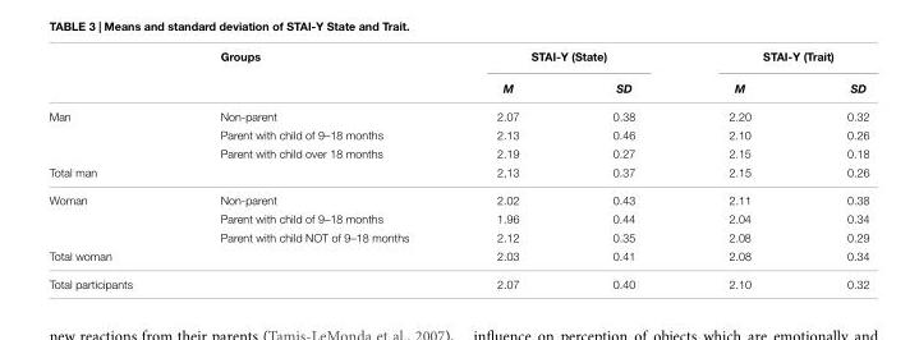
<table><thead><tr><td rowspan="2"></td><td rowspan="2">Groups</td><td colspan="2">STAI-Y (State)</td><td colspan="2">STAI-Y (Trait)</td></tr><tr><td>M</td><td>SD</td><td>M</td><td>SD</td></tr></thead><tbody><tr><td rowspan="3">Man</td><td>Non-parent</td><td>2.07</td><td>0.38</td><td>2.20</td><td>0.32</td></tr><tr><td>Parent with child of 9–18 months</td><td>2.13</td><td>0.46</td><td>2.10</td><td>0.26</td></tr><tr><td>Parent with child over 18 months</td><td>2.19</td><td>0.27</td><td>2.15</td><td>0.18</td></tr><tr><td>Total man</td><td></td><td>2,13</td><td>0.37</td><td>2.15</td><td>0.26</td></tr><tr><td rowspan="3">Woman</td><td>Non-parent</td><td>2.02</td><td>0.43</td><td>2.11</td><td>0.38</td></tr><tr><td>Parent with child of 9–18 months</td><td>1.96</td><td>0.44</td><td>2.04</td><td>0.34</td></tr><tr><td>Parent with child NOT of 9–18 months</td><td>2.12</td><td>0.35</td><td>2.08</td><td>0.29</td></tr><tr><td>Total woman</td><td></td><td>2.03</td><td>0.41</td><td>2.08</td><td>0.34</td></tr><tr><td>Total participants</td><td></td><td>2.07</td><td>0.40</td><td>2.10</td><td>0.32</td></tr></tbody></table>